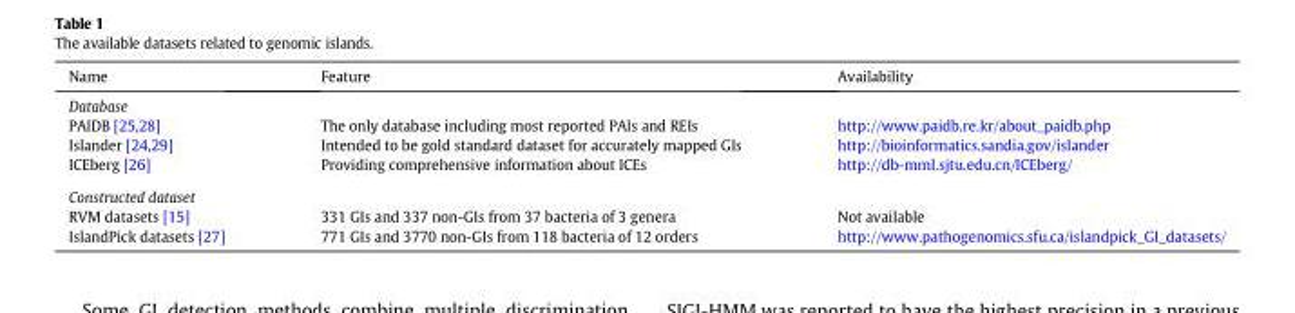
<table><thead><tr><td>Name</td><td>Feature</td><td>Availability</td></tr></thead><tbody><tr><td colspan="3">Database</td></tr><tr><td>PAIDB [25,28]</td><td>The only database including most reported PAIs and REIs</td><td>http://www.paidb.re.kr/about_paidb.php</td></tr><tr><td>Islander [24,29]</td><td>Intended to be gold standard dataset for accurately mapped GIs</td><td>http://bioinformatics.sandia.gov/islander</td></tr><tr><td>ICEberg [26]</td><td>Providing comprehensive information about ICEs</td><td>http://db-mml.sjtu.edu.cn/ICEberg/</td></tr><tr><td colspan="3">Constructed dataset</td></tr><tr><td>RVM datasets [15]</td><td>331 GIs and 337 non-GIs from 37 bacteria of 3 genera</td><td>Not available</td></tr><tr><td>IslandPick datasets [27]</td><td>771 GIs and 3770 non-GIs from 118 bacteria of 12 orders</td><td>http://www.pathogenomics.sfu.ca/islandpick_GI_datasets/</td></tr></tbody></table>